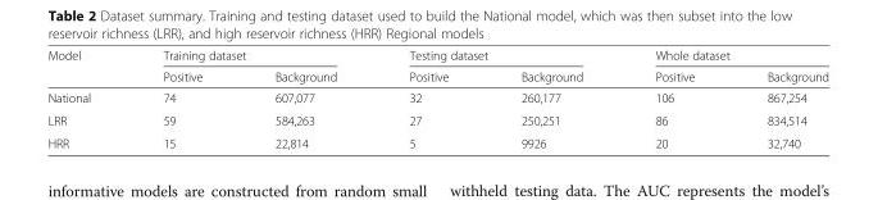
<table><thead><tr><td rowspan="2">Model</td><td colspan="2">Training dataset</td><td colspan="2">Testing dataset</td><td colspan="2">Whole dataset</td></tr><tr><td>Positive</td><td>Background</td><td>Positive</td><td>Background</td><td>Positive</td><td>Background</td></tr></thead><tbody><tr><td>National</td><td>74</td><td>607,077</td><td>32</td><td>260,177</td><td>106</td><td>867,254</td></tr><tr><td>LRR</td><td>59</td><td>584,263</td><td>27</td><td>250,251</td><td>86</td><td>834,514</td></tr><tr><td>HRR</td><td>15</td><td>22,814</td><td>5</td><td>9926</td><td>20</td><td>32,740</td></tr></tbody></table>